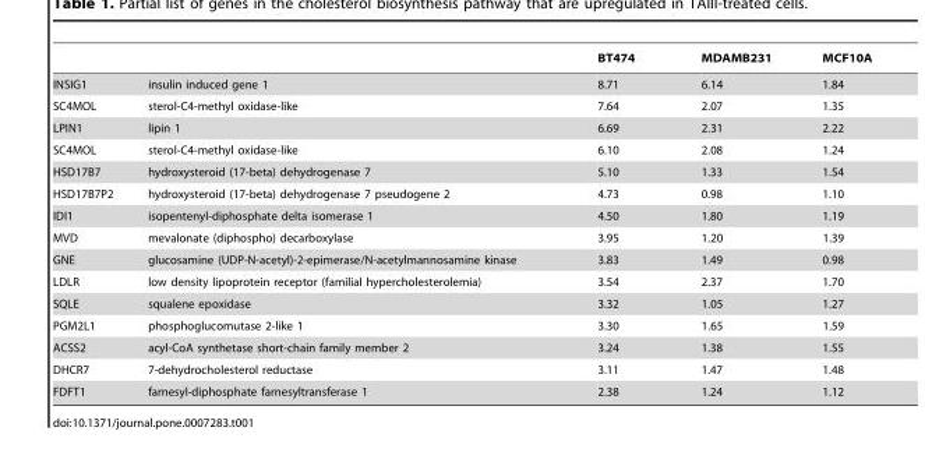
<table><thead><tr><td></td><td></td><td>BT474</td><td>MDAMB231</td><td>MCF10A</td></tr></thead><tbody><tr><td>INSIG1</td><td>insulin induced gene 1</td><td>8.71</td><td>6.14</td><td>1.84</td></tr><tr><td>SC4MOL</td><td>sterol-C4-methyl oxidase-like</td><td>7.64</td><td>2.07</td><td>1.35</td></tr><tr><td>LPIN1</td><td>lipin 1</td><td>6.69</td><td>2.31</td><td>2.22</td></tr><tr><td>SC4MOL</td><td>sterol-C4-methyl oxidase-like</td><td>6.10</td><td>2.08</td><td>1.24</td></tr><tr><td>HSD17B7</td><td>hydroxysteroid (17-beta) dehydrogenase 7</td><td>5.10</td><td>1.33</td><td>1.54</td></tr><tr><td>HSD17B7P2</td><td>hydroxysteroid (17-beta) dehydrogenase 7 pseudogene 2</td><td>4.73</td><td>0.98</td><td>1.10</td></tr><tr><td>IDI1</td><td>isopentenyl-diphosphate delta isomerase 1</td><td>4.50</td><td>1.80</td><td>1.19</td></tr><tr><td>MVD</td><td>mevalonate (diphospho) decarboxylase</td><td>3.95</td><td>1.20</td><td>1.39</td></tr><tr><td>GNE</td><td>glucosamine (UDP-N-acetyl)-2-epimerase/N-acetylmannosamine kinase</td><td>3.83</td><td>1.49</td><td>0.98</td></tr><tr><td>LDLR</td><td>low density lipoprotein receptor (familial hypercholesterolemia)</td><td>3.54</td><td>2.37</td><td>1.70</td></tr><tr><td>SQLE</td><td>squalene epoxidase</td><td>3.32</td><td>1.05</td><td>1.27</td></tr><tr><td>PGM2L1</td><td>phosphoglucomutase 2-like 1</td><td>3.30</td><td>1.65</td><td>1.59</td></tr><tr><td>ACSS2</td><td>acyl-CoA synthetase short-chain family member 2</td><td>3.24</td><td>1.38</td><td>1.55</td></tr><tr><td>DHCR7</td><td>7-dehydrocholesterol reductase</td><td>3.11</td><td>1.47</td><td>1.48</td></tr><tr><td>FDFT1</td><td>farnesyl-diphosphate farnesyltransferase 1</td><td>2.38</td><td>1.24</td><td>1.12</td></tr></tbody></table>